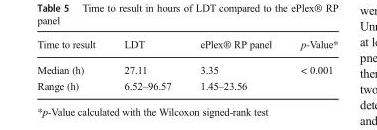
<table><thead><tr><td>Time to result</td><td>LDT</td><td>ePlex® RP panel</td><td>p-Value*</td></tr></thead><tbody><tr><td>Median (h)</td><td>27.11</td><td>3.35</td><td>&lt; 0.001</td></tr><tr><td>Range (h)</td><td>6.52–96.57</td><td>1.45–23.56</td><td></td></tr></tbody></table>